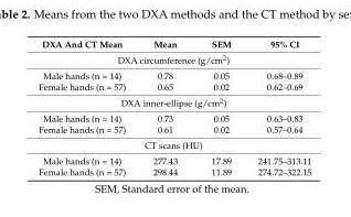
<table><thead><tr><td>DXA And CT Mean</td><td>Mean</td><td>SEM</td><td>95% CI</td></tr></thead><tbody><tr><td colspan="4">DXA circumference (g/cm<sup>2</sup>)</td></tr><tr><td>Male hands (n = 14)</td><td>0.78</td><td>0.05</td><td>0.68–0.89</td></tr><tr><td>Female hands (n = 57)</td><td>0.65</td><td>0.02</td><td>0.62–0.69</td></tr><tr><td colspan="4">DXA inner-ellipse (g/cm<sup>2</sup>)</td></tr><tr><td>Male hands (n = 14)</td><td>0.73</td><td>0.05</td><td>0.63–0.83</td></tr><tr><td>Female hands (n = 57)</td><td>0.61</td><td>0.02</td><td>0.57–0.64</td></tr><tr><td colspan="4">CT scans (HU)</td></tr><tr><td>Male hands (n = 14)</td><td>277.43</td><td>17.89</td><td>241.75–313.11</td></tr><tr><td>Female hands (n = 57)</td><td>298.44</td><td>11.89</td><td>274.72–322.15</td></tr></tbody></table>